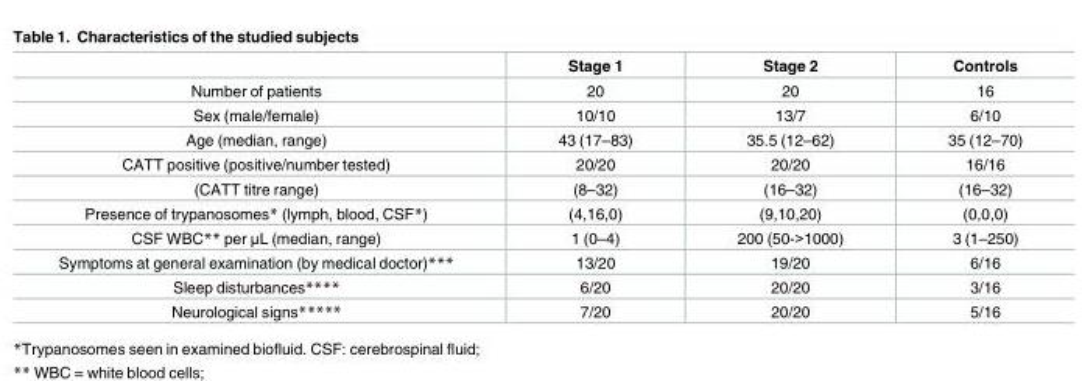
<table><thead><tr><td></td><td>Stage 1</td><td>Stage 2</td><td>Controls</td></tr></thead><tbody><tr><td>Number of patients</td><td>20</td><td>20</td><td>16</td></tr><tr><td>Sex (male/female)</td><td>10/10</td><td>13/7</td><td>6/10</td></tr><tr><td>Age (median, range)</td><td>43 (17–83)</td><td>35.5 (12–62)</td><td>35 (12–70)</td></tr><tr><td>CATT positive (positive/number tested)</td><td>20/20</td><td>20/20</td><td>16/16</td></tr><tr><td>(CATT titre range)</td><td>(8–32)</td><td>(16–32)</td><td>(16–32)</td></tr><tr><td>Presence of trypanosomes* (lymph, blood, CSF*)</td><td>(4,16,0)</td><td>(9,10,20)</td><td>(0,0,0)</td></tr><tr><td>CSF WBC** per μL (median, range)</td><td>1 (0–4)</td><td>200 (50-&gt;1000)</td><td>3 (1–250)</td></tr><tr><td>Symptoms at general examination (by medical doctor)***</td><td>13/20</td><td>19/20</td><td>6/16</td></tr><tr><td>Sleep disturbances****</td><td>6/20</td><td>20/20</td><td>3/16</td></tr><tr><td>Neurological signs*****</td><td>7/20</td><td>20/20</td><td>5/16</td></tr></tbody></table>